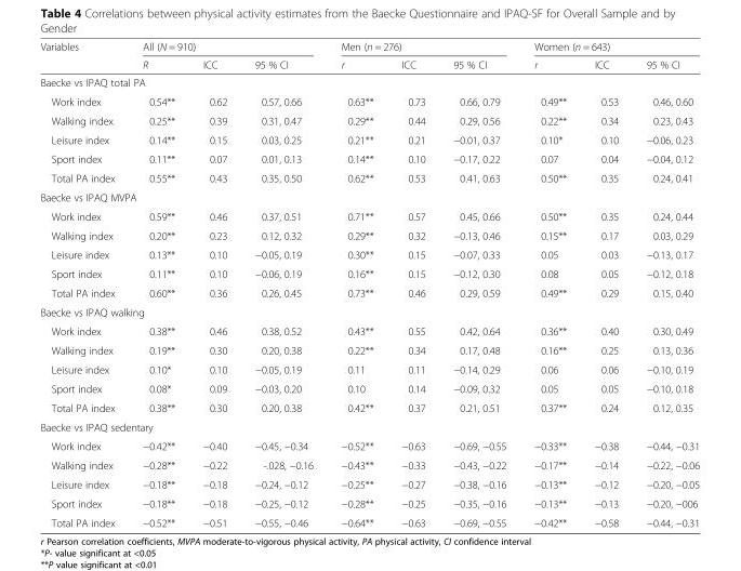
<table><thead><tr><td rowspan="2">Variables</td><td colspan="3">All (N = 910)</td><td colspan="3">Men (n = 276)</td><td colspan="3">Women (n = 643)</td></tr><tr><td>R</td><td>ICC</td><td>95 % CI</td><td>r</td><td>ICC</td><td>95 % CI</td><td>r</td><td>ICC</td><td>95 % CI</td></tr></thead><tbody><tr><td colspan="10">Baecke vs IPAQ total PA</td></tr><tr><td>Work index</td><td>0.54**</td><td>0.62</td><td>0.57, 0.66</td><td>0.63**</td><td>0.73</td><td>0.66, 0.79</td><td>0.49**</td><td>0.53</td><td>0.46, 0.60</td></tr><tr><td>Walking index</td><td>0.25**</td><td>0.39</td><td>0.31, 0.47</td><td>0.29**</td><td>0.44</td><td>0.29, 0.56</td><td>0.22**</td><td>0.34</td><td>0.23, 0.43</td></tr><tr><td>Leisure index</td><td>0.14**</td><td>0.15</td><td>0.03, 0.25</td><td>0.21**</td><td>0.21</td><td>−0.01, 0.37</td><td>0.10*</td><td>0.10</td><td>−0.06, 0.23</td></tr><tr><td>Sport index</td><td>0.11**</td><td>0.07</td><td>0.01, 0.13</td><td>0.14**</td><td>0.10</td><td>−0.17, 0.22</td><td>0.07</td><td>0.04</td><td>−0.04, 0.12</td></tr><tr><td>Total PA index</td><td>0.55**</td><td>0.43</td><td>0.35, 0.50</td><td>0.62**</td><td>0.53</td><td>0.41, 0.63</td><td>0.50**</td><td>0.35</td><td>0.24, 0.41</td></tr><tr><td colspan="10">Baecke vs IPAQ MVPA</td></tr><tr><td>Work index</td><td>0.59**</td><td>0.46</td><td>0.37, 0.51</td><td>0.71**</td><td>0.57</td><td>0.45, 0.66</td><td>0.50**</td><td>0.35</td><td>0.24, 0.44</td></tr><tr><td>Walking index</td><td>0.20**</td><td>0.23</td><td>0.12, 0.32</td><td>0.29**</td><td>0.32</td><td>−0.13, 0.46</td><td>0.15**</td><td>0.17</td><td>0.03, 0.29</td></tr><tr><td>Leisure index</td><td>0.13**</td><td>0.10</td><td>−0.05, 0.19</td><td>0.30**</td><td>0.15</td><td>−0.07, 0.33</td><td>0.05</td><td>0.03</td><td>−0.13, 0.17</td></tr><tr><td>Sport index</td><td>0.11**</td><td>0.10</td><td>−0.06, 0.19</td><td>0.16**</td><td>0.15</td><td>−0.12, 0.30</td><td>0.08</td><td>0.05</td><td>−0.12, 0.18</td></tr><tr><td>Total PA index</td><td>0.60**</td><td>0.36</td><td>0.26, 0.45</td><td>0.73**</td><td>0.46</td><td>0.29, 0.59</td><td>0.49**</td><td>0.29</td><td>0.15, 0.40</td></tr><tr><td colspan="10">Baecke vs IPAQ walking</td></tr><tr><td>Work index</td><td>0.38**</td><td>0.46</td><td>0.38, 0.52</td><td>0.43**</td><td>0.55</td><td>0.42, 0.64</td><td>0.36**</td><td>0.40</td><td>0.30, 0.49</td></tr><tr><td>Walking index</td><td>0.19**</td><td>0.30</td><td>0.20, 0.38</td><td>0.22**</td><td>0.34</td><td>0.17, 0.48</td><td>0.16**</td><td>0.25</td><td>0.13, 0.36</td></tr><tr><td>Leisure index</td><td>0.10*</td><td>0.10</td><td>−0.05, 0.19</td><td>0.11</td><td>0.11</td><td>−0.14, 0.29</td><td>0.06</td><td>0.06</td><td>−0.10, 0.19</td></tr><tr><td>Sport index</td><td>0.08*</td><td>0.09</td><td>−0.03, 0.20</td><td>0.10</td><td>0.14</td><td>−0.09, 0.32</td><td>0.05</td><td>0.05</td><td>−0.10, 0.18</td></tr><tr><td>Total PA index</td><td>0.38**</td><td>0.30</td><td>0.20, 0.38</td><td>0.42**</td><td>0.37</td><td>0.21, 0.51</td><td>0.37**</td><td>0.24</td><td>0.12, 0.35</td></tr><tr><td colspan="10">Baecke vs IPAQ sedentary</td></tr><tr><td>Work index</td><td>−0.42**</td><td>−0.40</td><td>−0.45, −0.34</td><td>−0.52**</td><td>−0.63</td><td>−0.69, −0.55</td><td>−0.33**</td><td>−0.38</td><td>−0.44, −0.31</td></tr><tr><td>Walking index</td><td>−0.28**</td><td>−0.22</td><td>-.028, −0.16</td><td>−0.43**</td><td>−0.33</td><td>−0.43, −0.22</td><td>−0.17**</td><td>−0.14</td><td>−0.22, −0.06</td></tr><tr><td>Leisure index</td><td>−0.18**</td><td>−0.18</td><td>−0.24, −0.12</td><td>−0.25**</td><td>−0.27</td><td>−0.38, −0.16</td><td>−0.13**</td><td>−0.12</td><td>−0.20, −0.05</td></tr><tr><td>Sport index</td><td>−0.18**</td><td>−0.18</td><td>−0.25, −0.12</td><td>−0.28**</td><td>−0.25</td><td>−0.35, −0.16</td><td>−0.13**</td><td>−0.13</td><td>−0.20, −006</td></tr><tr><td>Total PA index</td><td>−0.52**</td><td>−0.51</td><td>−0.55, −0.46</td><td>−0.64**</td><td>−0.63</td><td>−0.69, −0.55</td><td>−0.42**</td><td>−0.58</td><td>−0.44, −0.31</td></tr></tbody></table>